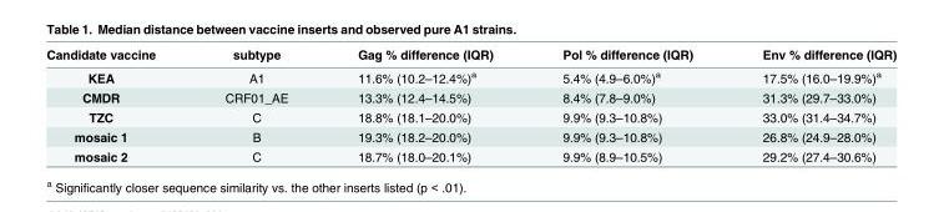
<table><thead><tr><td>Candidate vaccine</td><td>subtype</td><td>Gag % difference (IQR)</td><td>Pol % difference (IQR)</td><td>Env % difference (IQR)</td></tr></thead><tbody><tr><td>KEA</td><td>A1</td><td>11.6% (10.2–12.4%)<sup>a</sup></td><td>5.4% (4.9–6.0%)<sup>a</sup></td><td>17.5% (16.0–19.9%)<sup>a</sup></td></tr><tr><td>CMDR</td><td>CRF01_AE</td><td>13.3% (12.4–14.5%)</td><td>8.4% (7.8–9.0%)</td><td>31.3% (29.7–33.0%)</td></tr><tr><td>TZC</td><td>C</td><td>18.8% (18.1–20.0%)</td><td>9.9% (9.3–10.8%)</td><td>33.0% (31.4–34.7%)</td></tr><tr><td>mosaic 1</td><td>B</td><td>19.3% (18.2–20.0%)</td><td>9.9% (9.3–10.8%)</td><td>26.8% (24.9–28.0%)</td></tr><tr><td>mosaic 2</td><td>C</td><td>18.7% (18.0–20.1%)</td><td>9.9% (8.9–10.5%)</td><td>29.2% (27.4–30.6%)</td></tr></tbody></table>